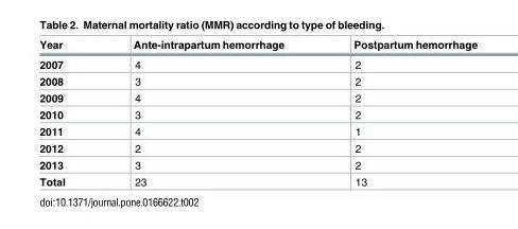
<table><thead><tr><td>Year</td><td>Ante-intrapartum hemorrhage</td><td>Postpartum hemorrhage</td></tr></thead><tbody><tr><td>2007</td><td>4</td><td>2</td></tr><tr><td>2008</td><td>3</td><td>2</td></tr><tr><td>2009</td><td>4</td><td>2</td></tr><tr><td>2010</td><td>3</td><td>2</td></tr><tr><td>2011</td><td>4</td><td>1</td></tr><tr><td>2012</td><td>2</td><td>2</td></tr><tr><td>2013</td><td>3</td><td>2</td></tr><tr><td>Total</td><td>23</td><td>13</td></tr></tbody></table>